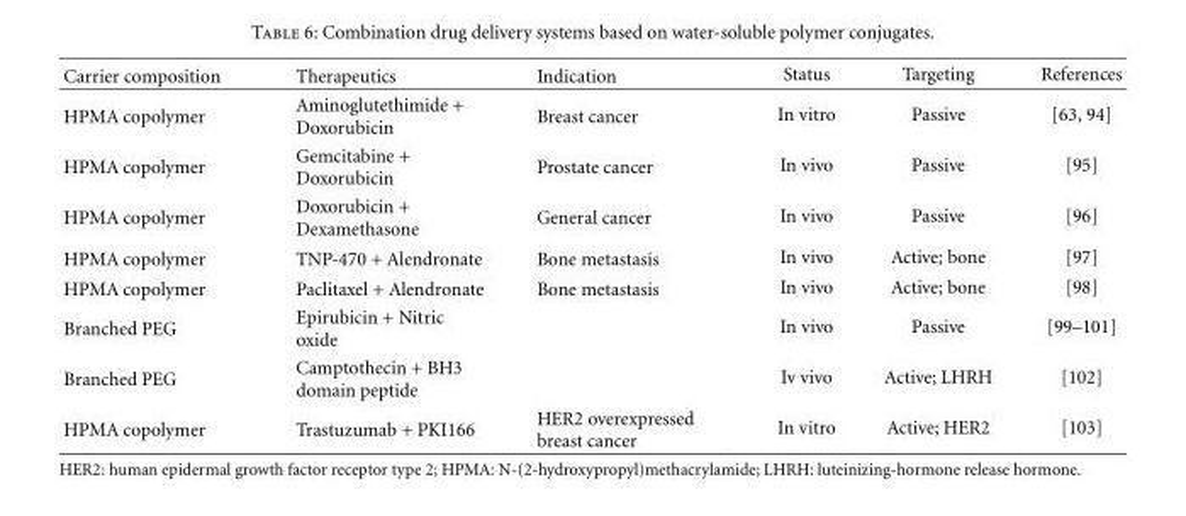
<table><thead><tr><td>Carrier composition</td><td>Therapeutics</td><td>Indication</td><td>Status</td><td>Targeting</td><td>References</td></tr></thead><tbody><tr><td>HPMA copolymer</td><td>Aminoglutethimide + Doxorubicin</td><td>Breast cancer</td><td>In vitro</td><td>Passive</td><td>[63, 94]</td></tr><tr><td>HPMA copolymer</td><td>Gemcitabine + Doxorubicin</td><td>Prostate cancer</td><td>In vivo</td><td>Passive</td><td>[95]</td></tr><tr><td>HPMA copolymer</td><td>Doxorubicin + Dexamethasone</td><td>General cancer</td><td>In vivo</td><td>Passive</td><td>[96]</td></tr><tr><td>HPMA copolymer</td><td>TNP-470 + Alendronate</td><td>Bone metastasis</td><td>In vivo</td><td>Active; bone</td><td>[97]</td></tr><tr><td>HPMA copolymer</td><td>Paclitaxel + Alendronate</td><td>Bone metastasis</td><td>In vivo</td><td>Active; bone</td><td>[98]</td></tr><tr><td>Branched PEG</td><td>Epirubicin + Nitric oxide</td><td></td><td>In vivo</td><td>Passive</td><td>[99–101]</td></tr><tr><td>Branched PEG</td><td>Camptothecin + BH3 domain peptide</td><td></td><td>Iv vivo</td><td>Active; LHRH</td><td>[102]</td></tr><tr><td>HPMA copolymer</td><td>Trastuzumab + PKI166</td><td>HER2 overexpressed breast cancer</td><td>In vitro</td><td>Active; HER2</td><td>[103]</td></tr></tbody></table>